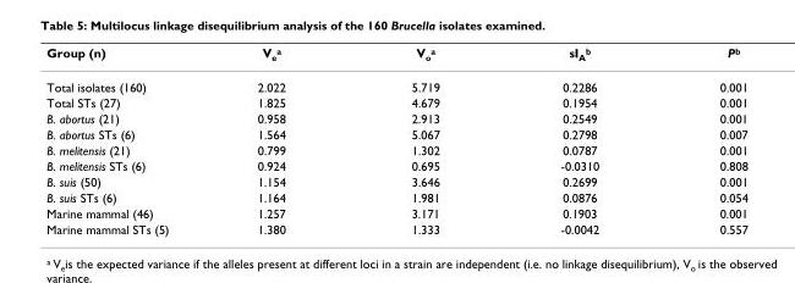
<table><thead><tr><td>Group (n)</td><td>Vea</td><td>Voa</td><td>sIAb</td><td>Pb</td></tr></thead><tbody><tr><td>Total isolates (160)</td><td>2.022</td><td>5.719</td><td>0.2286</td><td>0.001</td></tr><tr><td>Total STs (27)</td><td>1.825</td><td>4.679</td><td>0.1954</td><td>0.001</td></tr><tr><td>B. abortus (21)</td><td>0.958</td><td>2.913</td><td>0.2549</td><td>0.001</td></tr><tr><td>B. abortus STs (6)</td><td>1.564</td><td>5.067</td><td>0.2798</td><td>0.007</td></tr><tr><td>B. melitensis (21)</td><td>0.799</td><td>1.302</td><td>0.0787</td><td>0.001</td></tr><tr><td>B. melitensis STs (6)</td><td>0.924</td><td>0.695</td><td>-0.0310</td><td>0.808</td></tr><tr><td>B. suis (50)</td><td>1.154</td><td>3.646</td><td>0.2699</td><td>0.001</td></tr><tr><td>B. suis STs (6)</td><td>1.164</td><td>1.981</td><td>0.0876</td><td>0.054</td></tr><tr><td>Marine mammal (46)</td><td>1.257</td><td>3.171</td><td>0.1903</td><td>0.001</td></tr><tr><td>Marine mammal STs (5)</td><td>1.380</td><td>1.333</td><td>-0.0042</td><td>0.557</td></tr></tbody></table>